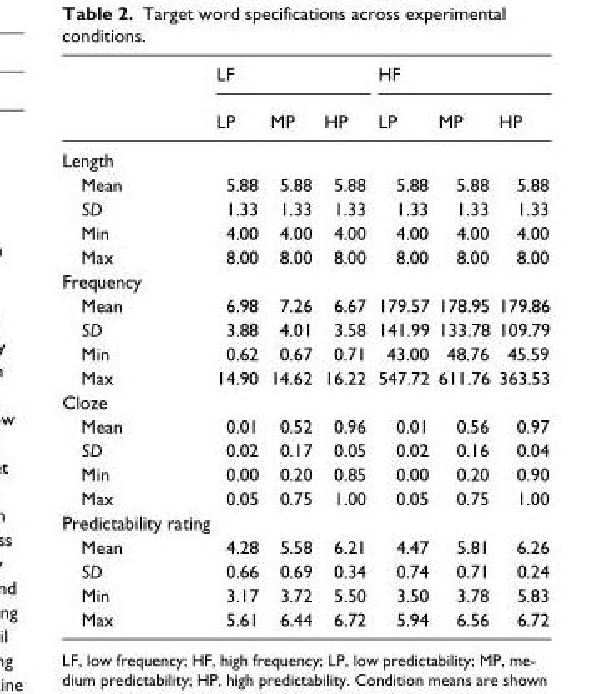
<table><thead><tr><td rowspan="2"></td><td colspan="3">LF</td><td colspan="3">HF</td></tr><tr><td>LP</td><td>MP</td><td>HP</td><td>LP</td><td>MP</td><td>HP</td></tr></thead><tbody><tr><td colspan="7">Length</td></tr><tr><td>Mean</td><td>5.88</td><td>5.88</td><td>5.88</td><td>5.88</td><td>5.88</td><td>5.88</td></tr><tr><td>SD</td><td>1.33</td><td>1.33</td><td>1.33</td><td>1.33</td><td>1.33</td><td>1.33</td></tr><tr><td>Min</td><td>4.00</td><td>4.00</td><td>4.00</td><td>4.00</td><td>4.00</td><td>4.00</td></tr><tr><td>Max</td><td>8.00</td><td>8.00</td><td>8.00</td><td>8.00</td><td>8.00</td><td>8.00</td></tr><tr><td colspan="7">Frequency</td></tr><tr><td>Mean</td><td>6.98</td><td>7.26</td><td>6.67</td><td>179.57</td><td>178.95</td><td>179.86</td></tr><tr><td>SD</td><td>3.88</td><td>4.01</td><td>3.58</td><td>141.99</td><td>133.78</td><td>109.79</td></tr><tr><td>Min</td><td>0.62</td><td>0.67</td><td>0.71</td><td>43.00</td><td>48.76</td><td>45.59</td></tr><tr><td>Max</td><td>14.90</td><td>14.62</td><td>16.22</td><td>547.72</td><td>611.76</td><td>363.53</td></tr><tr><td colspan="7">Cloze</td></tr><tr><td>Mean</td><td>0.01</td><td>0.52</td><td>0.96</td><td>0.01</td><td>0.56</td><td>0.97</td></tr><tr><td>SD</td><td>0.02</td><td>0.17</td><td>0.05</td><td>0.02</td><td>0.16</td><td>0.04</td></tr><tr><td>Min</td><td>0.00</td><td>0.20</td><td>0.85</td><td>0.00</td><td>0.20</td><td>0.90</td></tr><tr><td>Max</td><td>0.05</td><td>0.75</td><td>1.00</td><td>0.05</td><td>0.75</td><td>1.00</td></tr><tr><td colspan="7">Predictability rating</td></tr><tr><td>Mean</td><td>4.28</td><td>5.58</td><td>6.21</td><td>4.47</td><td>5.81</td><td>6.26</td></tr><tr><td>SD</td><td>0.66</td><td>0.69</td><td>0.34</td><td>0.74</td><td>0.71</td><td>0.24</td></tr><tr><td>Min</td><td>3.17</td><td>3.72</td><td>5.50</td><td>3.50</td><td>3.78</td><td>5.83</td></tr><tr><td>Max</td><td>5.61</td><td>6.44</td><td>6.72</td><td>5.94</td><td>6.56</td><td>6.72</td></tr></tbody></table>